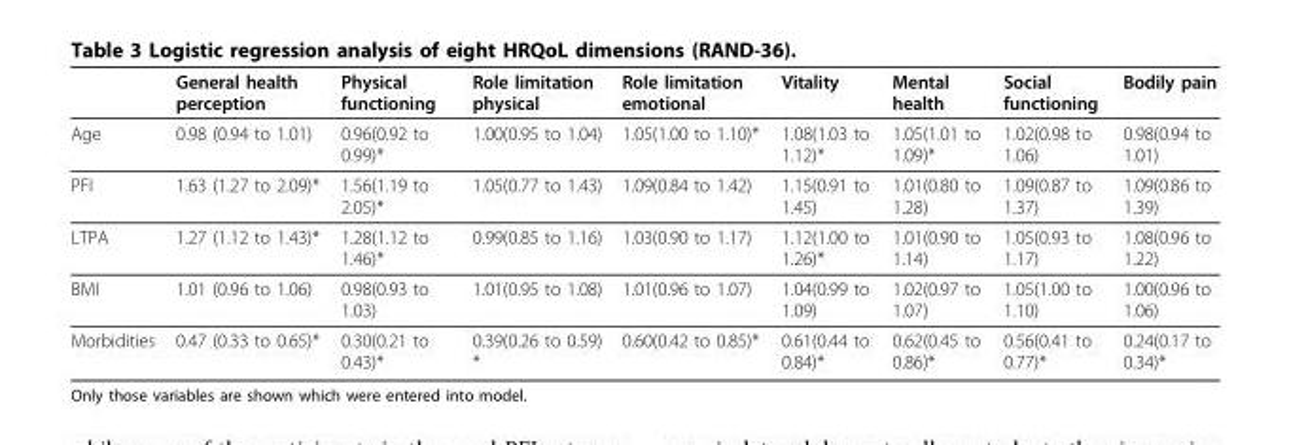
<table><thead><tr><td></td><td>General health perception</td><td>Physical functioning</td><td>Role limitation physical</td><td>Role limitation emotional</td><td>Vitality</td><td>Mental health</td><td>Social functioning</td><td>Bodily pain</td></tr></thead><tbody><tr><td>Age</td><td>0.98 (0.94 to 1.01)</td><td>0.96(0.92 to 0.99)*</td><td>1.00(0.95 to 1.04)</td><td>1.05(1.00 to 1.10)*</td><td>1.08(1.03 to 1.12)*</td><td>1.05(1.01 to 1.09)*</td><td>1.02(0.98 to 1.06)</td><td>0.98(0.94 to 1.01)</td></tr><tr><td>PFI</td><td>1.63 (1.27 to 2.09)*</td><td>1.56(1.19 to 2.05)*</td><td>1.05(0.77 to 1.43)</td><td>1.09(0.84 to 1.42)</td><td>1.15(0.91 to 1.45)</td><td>1.01(0.80 to 1.28)</td><td>1.09(0.87 to 1.37)</td><td>1.09(0.86 to 1.39)</td></tr><tr><td>LTPA</td><td>1.27 (1.12 to 1.43)*</td><td>1.28(1.12 to 1.46)*</td><td>0.99(0.85 to 1.16)</td><td>1.03(0.90 to 1.17)</td><td>1.12(1.00 to 1.26)*</td><td>1.01(0.90 to 1.14)</td><td>1.05(0.93 to 1.17)</td><td>1.08(0.96 to 1.22)</td></tr><tr><td>BMI</td><td>1.01 (0.96 to 1.06)</td><td>0.98(0.93 to 1.03)</td><td>1.01(0.95 to 1.08)</td><td>1.01(0.96 to 1.07)</td><td>1.04(0.99 to 1.09)</td><td>1.02(0.97 to 1.07)</td><td>1.05(1.00 to 1.10)</td><td>1.00(0.96 to 1.06)</td></tr><tr><td>Morbidities</td><td>0.47 (0.33 to 0.65)*</td><td>0.30(0.21 to 0.43)*</td><td>0.39(0.26 to 0.59) *</td><td>0.60(0.42 to 0.85)*</td><td>0.61(0.44 to 0.84)*</td><td>0.62(0.45 to 0.86)*</td><td>0.56(0.41 to 0.77)*</td><td>0.24(0.17 to 0.34)*</td></tr></tbody></table>